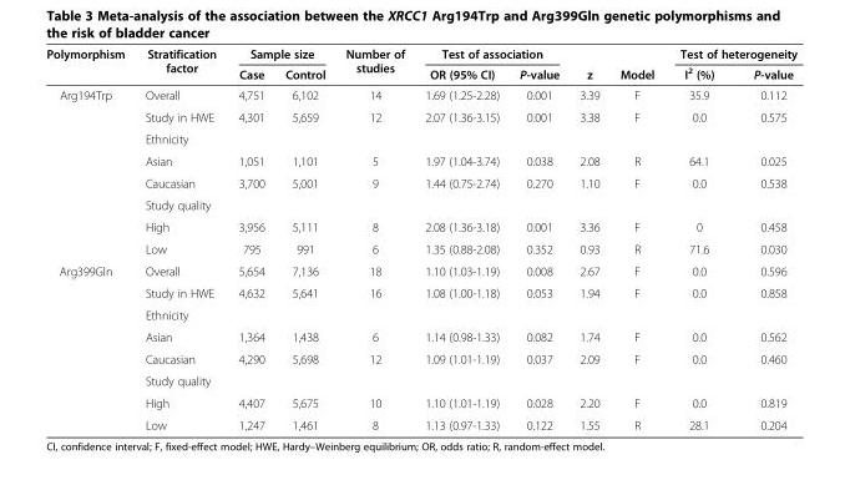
<table><thead><tr><td rowspan="2">Polymorphism</td><td rowspan="2">Stratification factor</td><td colspan="2">Sample size</td><td rowspan="2">Number of studies</td><td colspan="2">Test of association</td><td rowspan="2">z</td><td rowspan="2">Model</td><td colspan="2">Test of heterogeneity</td></tr><tr><td>Case</td><td>Control</td><td>OR (95% CI)</td><td>P-value</td><td>I<sup>2</sup> (%)</td><td>P-value</td></tr></thead><tbody><tr><td rowspan="8">Arg194Trp</td><td>Overall</td><td>4,751</td><td>6,102</td><td>14</td><td>1.69 (1.25-2.28)</td><td>0.001</td><td>3.39</td><td>F</td><td>35.9</td><td>0.112</td></tr><tr><td>Study in HWE</td><td>4,301</td><td>5,659</td><td>12</td><td>2.07 (1.36-3.15)</td><td>0.001</td><td>3.38</td><td>F</td><td>0.0</td><td>0.575</td></tr><tr><td>Ethnicity</td><td></td><td></td><td></td><td></td><td></td><td></td><td></td><td></td><td></td></tr><tr><td>Asian</td><td>1,051</td><td>1,101</td><td>5</td><td>1.97 (1.04-3.74)</td><td>0.038</td><td>2.08</td><td>R</td><td>64.1</td><td>0.025</td></tr><tr><td>Caucasian</td><td>3,700</td><td>5,001</td><td>9</td><td>1.44 (0.75-2.74)</td><td>0.270</td><td>1.10</td><td>F</td><td>0.0</td><td>0.538</td></tr><tr><td>Study quality</td><td></td><td></td><td></td><td></td><td></td><td></td><td></td><td></td><td></td></tr><tr><td>High</td><td>3,956</td><td>5,111</td><td>8</td><td>2.08 (1.36-3.18)</td><td>0.001</td><td>3.36</td><td>F</td><td>0</td><td>0.458</td></tr><tr><td>Low</td><td>795</td><td>991</td><td>6</td><td>1.35 (0.88-2.08)</td><td>0.352</td><td>0.93</td><td>R</td><td>71.6</td><td>0.030</td></tr><tr><td rowspan="8">Arg399Gln</td><td>Overall</td><td>5,654</td><td>7,136</td><td>18</td><td>1.10 (1.03-1.19)</td><td>0.008</td><td>2.67</td><td>F</td><td>0.0</td><td>0.596</td></tr><tr><td>Study in HWE</td><td>4,632</td><td>5,641</td><td>16</td><td>1.08 (1.00-1.18)</td><td>0.053</td><td>1.94</td><td>F</td><td>0.0</td><td>0.858</td></tr><tr><td>Ethnicity</td><td></td><td></td><td></td><td></td><td></td><td></td><td></td><td></td><td></td></tr><tr><td>Asian</td><td>1,364</td><td>1,438</td><td>6</td><td>1.14 (0.98-1.33)</td><td>0.082</td><td>1.74</td><td>F</td><td>0.0</td><td>0.562</td></tr><tr><td>Caucasian</td><td>4,290</td><td>5,698</td><td>12</td><td>1.09 (1.01-1.19)</td><td>0.037</td><td>2.09</td><td>F</td><td>0.0</td><td>0.460</td></tr><tr><td>Study quality</td><td></td><td></td><td></td><td></td><td></td><td></td><td></td><td></td><td></td></tr><tr><td>High</td><td>4,407</td><td>5,675</td><td>10</td><td>1.10 (1.01-1.19)</td><td>0.028</td><td>2.20</td><td>F</td><td>0.0</td><td>0.819</td></tr><tr><td>Low</td><td>1,247</td><td>1,461</td><td>8</td><td>1.13 (0.97-1.33)</td><td>0.122</td><td>1.55</td><td>R</td><td>28.1</td><td>0.204</td></tr></tbody></table>